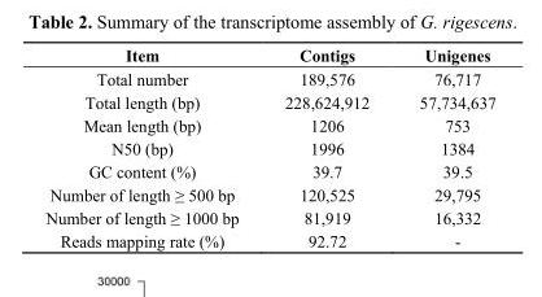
<table><thead><tr><td>Item</td><td>Contigs</td><td>Unigenes</td></tr></thead><tbody><tr><td>Total number</td><td>189,576</td><td>76,717</td></tr><tr><td>Total length (bp)</td><td>228,624,912</td><td>57,734,637</td></tr><tr><td>Mean length (bp)</td><td>1206</td><td>753</td></tr><tr><td>N50 (bp)</td><td>1996</td><td>1384</td></tr><tr><td>GC content (%)</td><td>39.7</td><td>39.5</td></tr><tr><td>Number of length ≥ 500 bp</td><td>120,525</td><td>29,795</td></tr><tr><td>Number of length ≥ 1000 bp</td><td>81,919</td><td>16,332</td></tr><tr><td>Reads mapping rate (%)</td><td>92.72</td><td>-</td></tr></tbody></table>